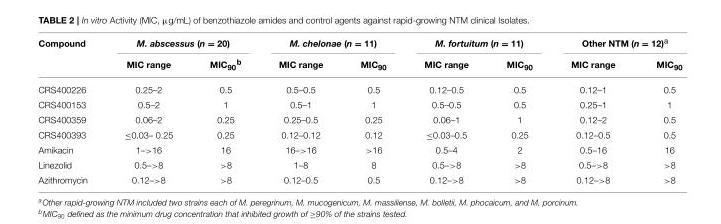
<table><thead><tr><td rowspan="2">Compound</td><td colspan="2">M. abscessus (n = 20)</td><td colspan="2">M. chelonae (n = 11)</td><td colspan="2">M. fortuitum (n = 11)</td><td colspan="2">Other NTM (n = 12)<sup>a</sup></td></tr><tr><td>MIC range</td><td>MIC<sub>90</sub><sup>b</sup></td><td>MIC range</td><td>MIC<sub>90</sub></td><td>MIC range</td><td>MIC<sub>90</sub></td><td>MIC range</td><td>MIC<sub>90</sub></td></tr></thead><tbody><tr><td>CRS400226</td><td>0.25–2</td><td>0.5</td><td>0.5–0.5</td><td>0.5</td><td>0.12–0.5</td><td>0.5</td><td>0.12–1</td><td>0.5</td></tr><tr><td>CRS400153</td><td>0.5–2</td><td>1</td><td>0.5–1</td><td>1</td><td>0.5–0.5</td><td>0.5</td><td>0.25–1</td><td>1</td></tr><tr><td>CRS400359</td><td>0.06–2</td><td>0.25</td><td>0.25–0.5</td><td>0.25</td><td>0.06–1</td><td>1</td><td>0.12–2</td><td>0.5</td></tr><tr><td>CRS400393</td><td>≤0.03– 0.25</td><td>0.25</td><td>0.12–0.12</td><td>0.12</td><td>≤0.03–0.5</td><td>0.25</td><td>0.12–0.5</td><td>0.5</td></tr><tr><td>Amikacin</td><td>1–&gt;16</td><td>16</td><td>16–&gt;16</td><td>&gt;16</td><td>0.5–4</td><td>2</td><td>0.5–16</td><td>16</td></tr><tr><td>Linezolid</td><td>0.5–&gt;8</td><td>&gt;8</td><td>1–8</td><td>8</td><td>0.5–&gt;8</td><td>&gt;8</td><td>0.5–&gt;8</td><td>&gt;8</td></tr><tr><td>Azithromycin</td><td>0.12–&gt;8</td><td>&gt;8</td><td>0.12–0.5</td><td>0.5</td><td>0.12–&gt;8</td><td>&gt;8</td><td>0.12–&gt;8</td><td>&gt;8</td></tr></tbody></table>